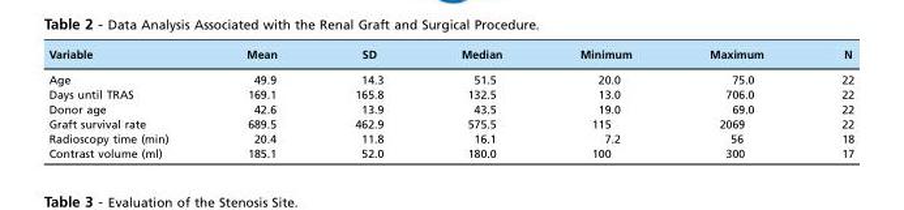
<table><thead><tr><td>Variable</td><td>Mean</td><td>SD</td><td>Median</td><td>Minimum</td><td>Maximum</td><td>N</td></tr></thead><tbody><tr><td>Age</td><td>49.9</td><td>14.3</td><td>51.5</td><td>20.0</td><td>75.0</td><td>22</td></tr><tr><td>Days until TRAS</td><td>169.1</td><td>165.8</td><td>132.5</td><td>13.0</td><td>706.0</td><td>22</td></tr><tr><td>Donor age</td><td>42.6</td><td>13.9</td><td>43.5</td><td>19.0</td><td>69.0</td><td>22</td></tr><tr><td>Graft survival rate</td><td>689.5</td><td>462.9</td><td>575.5</td><td>115</td><td>2069</td><td>22</td></tr><tr><td>Radioscopy time (min)</td><td>20.4</td><td>11.8</td><td>16.1</td><td>7.2</td><td>56</td><td>18</td></tr><tr><td>Contrast volume (ml)</td><td>185.1</td><td>52.0</td><td>180.0</td><td>100</td><td>300</td><td>17</td></tr></tbody></table>